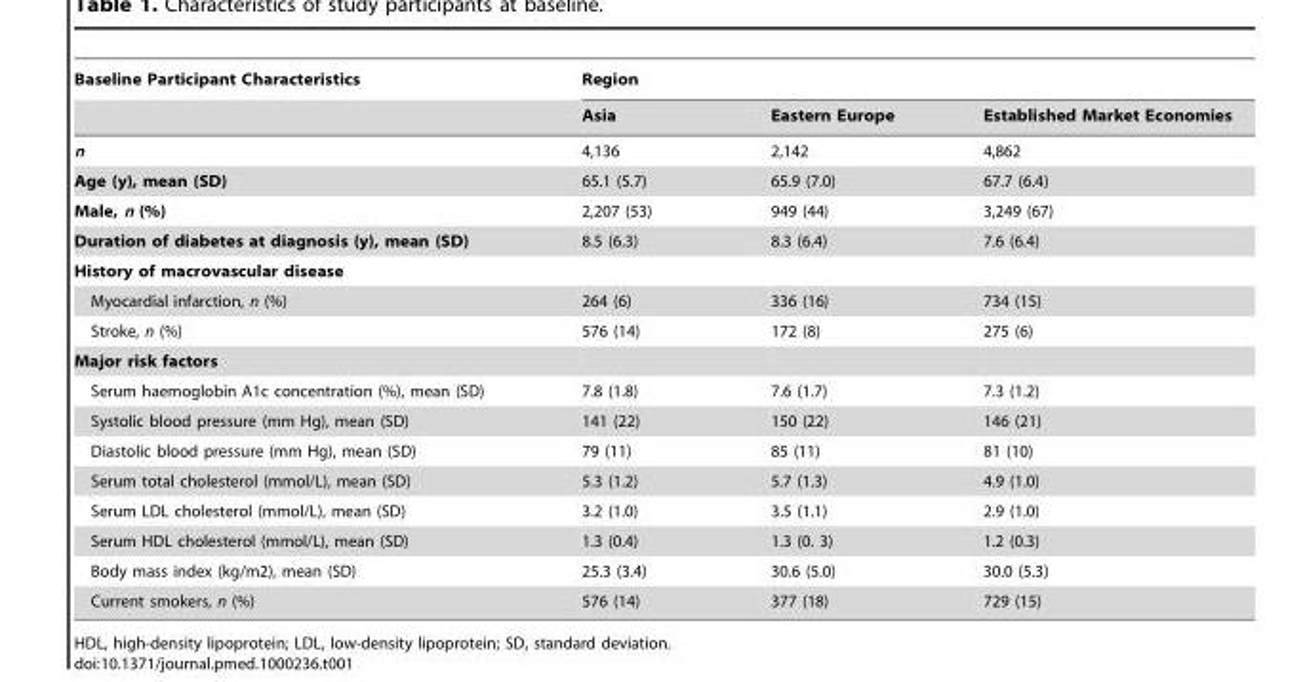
<table><thead><tr><td rowspan="2">Baseline Participant Characteristics</td><td colspan="3">Region</td></tr><tr><td>Asia</td><td>Eastern Europe</td><td>Established Market Economies</td></tr></thead><tbody><tr><td>n</td><td>4,136</td><td>2,142</td><td>4,862</td></tr><tr><td>Age (y), mean (SD)</td><td>65.1 (5.7)</td><td>65.9 (7.0)</td><td>67.7 (6.4)</td></tr><tr><td>Male, n (%)</td><td>2,207 (53)</td><td>949 (44)</td><td>3,249 (67)</td></tr><tr><td>Duration of diabetes at diagnosis (y), mean (SD)</td><td>8.5 (6.3)</td><td>8.3 (6.4)</td><td>7.6 (6.4)</td></tr><tr><td colspan="4">History of macrovascular disease</td></tr><tr><td>Myocardial infarction, n (%)</td><td>264 (6)</td><td>336 (16)</td><td>734 (15)</td></tr><tr><td>Stroke, n (%)</td><td>576 (14)</td><td>172 (8)</td><td>275 (6)</td></tr><tr><td colspan="4">Major risk factors</td></tr><tr><td>Serum haemoglobin A1c concentration (%), mean (SD)</td><td>7.8 (1.8)</td><td>7.6 (1.7)</td><td>7.3 (1.2)</td></tr><tr><td>Systolic blood pressure (mm Hg), mean (SD)</td><td>141 (22)</td><td>150 (22)</td><td>146 (21)</td></tr><tr><td>Diastolic blood pressure (mm Hg), mean (SD)</td><td>79 (11)</td><td>85 (11)</td><td>81 (10)</td></tr><tr><td>Serum total cholesterol (mmol/L), mean (SD)</td><td>5.3 (1.2)</td><td>5.7 (1.3)</td><td>4.9 (1.0)</td></tr><tr><td>Serum LDL cholesterol (mmol/L), mean (SD)</td><td>3.2 (1.0)</td><td>3.5 (1.1)</td><td>2.9 (1.0)</td></tr><tr><td>Serum HDL cholesterol (mmol/L), mean (SD)</td><td>1.3 (0.4)</td><td>1.3 (0. 3)</td><td>1.2 (0.3)</td></tr><tr><td>Body mass index (kg/m2), mean (SD)</td><td>25.3 (3.4)</td><td>30.6 (5.0)</td><td>30.0 (5.3)</td></tr><tr><td>Current smokers, n (%)</td><td>576 (14)</td><td>377 (18)</td><td>729 (15)</td></tr></tbody></table>